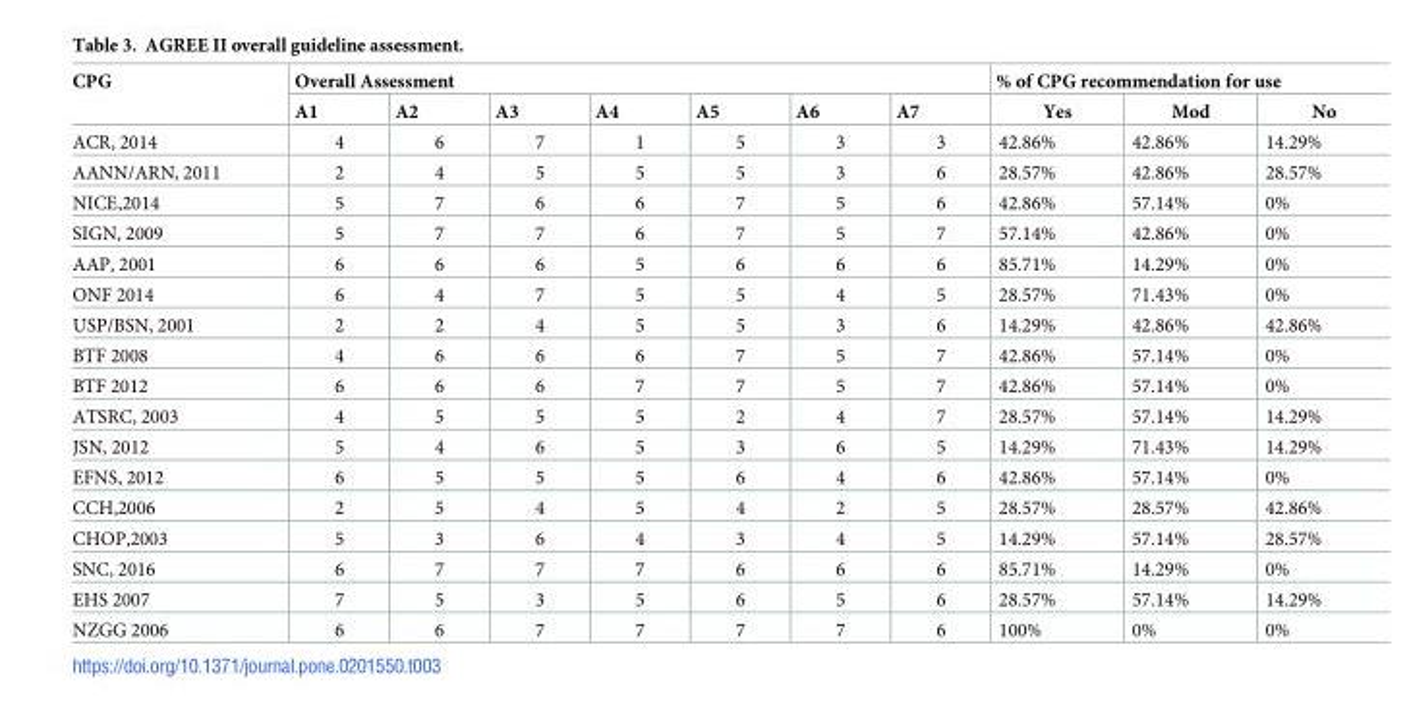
<table><thead><tr><td rowspan="2">CPG</td><td colspan="7">Overall Assessment</td><td colspan="3">% of CPG recommendation for use</td></tr><tr><td>A1</td><td>A2</td><td>A3</td><td>A4</td><td>A5</td><td>A6</td><td>A7</td><td>Yes</td><td>Mod</td><td>No</td></tr></thead><tbody><tr><td>ACR, 2014</td><td>4</td><td>6</td><td>7</td><td>1</td><td>5</td><td>3</td><td>3</td><td>42.86%</td><td>42.86%</td><td>14.29%</td></tr><tr><td>AANN/ARN, 2011</td><td>2</td><td>4</td><td>5</td><td>5</td><td>5</td><td>3</td><td>6</td><td>28.57%</td><td>42.86%</td><td>28.57%</td></tr><tr><td>NICE,2014</td><td>5</td><td>7</td><td>6</td><td>6</td><td>7</td><td>5</td><td>6</td><td>42.86%</td><td>57.14%</td><td>0%</td></tr><tr><td>SIGN, 2009</td><td>5</td><td>7</td><td>7</td><td>6</td><td>7</td><td>5</td><td>7</td><td>57.14%</td><td>42.86%</td><td>0%</td></tr><tr><td>AAP, 2001</td><td>6</td><td>6</td><td>6</td><td>5</td><td>6</td><td>6</td><td>6</td><td>85.71%</td><td>14.29%</td><td>0%</td></tr><tr><td>ONF 2014</td><td>6</td><td>4</td><td>7</td><td>5</td><td>5</td><td>4</td><td>5</td><td>28.57%</td><td>71.43%</td><td>0%</td></tr><tr><td>USP/BSN, 2001</td><td>2</td><td>2</td><td>4</td><td>5</td><td>5</td><td>3</td><td>6</td><td>14.29%</td><td>42.86%</td><td>42.86%</td></tr><tr><td>BTF 2008</td><td>4</td><td>6</td><td>6</td><td>6</td><td>7</td><td>5</td><td>7</td><td>42.86%</td><td>57.14%</td><td>0%</td></tr><tr><td>BTF 2012</td><td>6</td><td>6</td><td>6</td><td>7</td><td>7</td><td>5</td><td>7</td><td>42.86%</td><td>57.14%</td><td>0%</td></tr><tr><td>ATSRC, 2003</td><td>4</td><td>5</td><td>5</td><td>5</td><td>2</td><td>4</td><td>7</td><td>28.57%</td><td>57.14%</td><td>14.29%</td></tr><tr><td>JSN, 2012</td><td>5</td><td>4</td><td>6</td><td>5</td><td>3</td><td>6</td><td>5</td><td>14.29%</td><td>71.43%</td><td>14.29%</td></tr><tr><td>EFNS, 2012</td><td>6</td><td>5</td><td>5</td><td>5</td><td>6</td><td>4</td><td>6</td><td>42.86%</td><td>57.14%</td><td>0%</td></tr><tr><td>CCH,2006</td><td>2</td><td>5</td><td>4</td><td>5</td><td>4</td><td>2</td><td>5</td><td>28.57%</td><td>28.57%</td><td>42.86%</td></tr><tr><td>CHOP,2003</td><td>5</td><td>3</td><td>6</td><td>4</td><td>3</td><td>4</td><td>5</td><td>14.29%</td><td>57.14%</td><td>28.57%</td></tr><tr><td>SNC, 2016</td><td>6</td><td>7</td><td>7</td><td>7</td><td>6</td><td>6</td><td>6</td><td>85.71%</td><td>14.29%</td><td>0%</td></tr><tr><td>EHS 2007</td><td>7</td><td>5</td><td>3</td><td>5</td><td>6</td><td>5</td><td>6</td><td>28.57%</td><td>57.14%</td><td>14.29%</td></tr><tr><td>NZGG 2006</td><td>6</td><td>6</td><td>7</td><td>7</td><td>7</td><td>7</td><td>6</td><td>100%</td><td>0%</td><td>0%</td></tr></tbody></table>